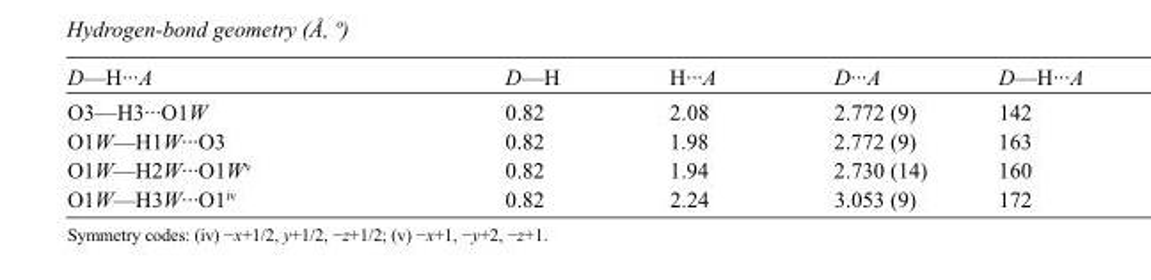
<table><tbody><tr><td>D—H···A</td><td>D—H</td><td>H···A</td><td>D···A</td><td>D—H···A</td></tr><tr><td>O3—H3···O1W</td><td>0.82</td><td>2.08</td><td>2.772 (9)</td><td>142</td></tr><tr><td>O1W—H1W···O3</td><td>0.82</td><td>1.98</td><td>2.772 (9)</td><td>163</td></tr><tr><td>O1W—H2W···O1W<sup>v</sup></td><td>0.82</td><td>1.94</td><td>2.730 (14)</td><td>160</td></tr><tr><td>O1W—H3W···O1<sup>iv</sup></td><td>0.82</td><td>2.24</td><td>3.053 (9)</td><td>172</td></tr></tbody></table>